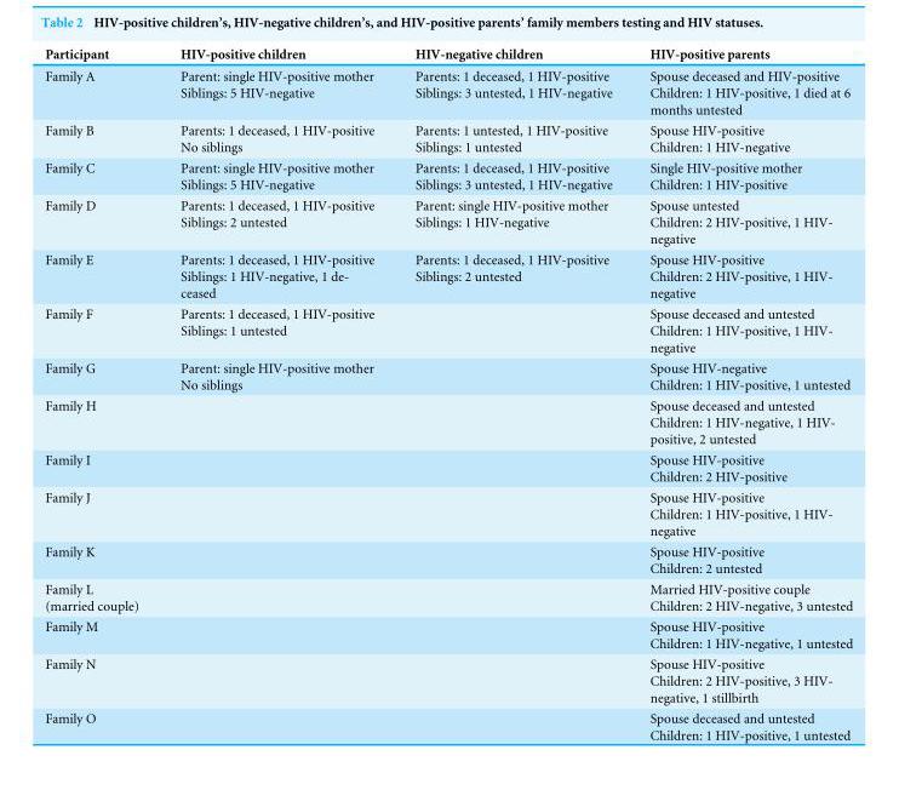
<table><thead><tr><td>Participant</td><td>HIV-positive children</td><td>HIV-negative children</td><td>HIV-positive parents</td></tr></thead><tbody><tr><td>Family A</td><td>Parent: single HIV-positive mother Siblings: 5 HIV-negative</td><td>Parents: 1 deceased, 1 HIV-positive Siblings: 3 untested, 1 HIV-negative</td><td>Spouse deceased and HIV-positive Children: 1 HIV-positive, 1 died at 6 months untested</td></tr><tr><td>Family B</td><td>Parents: 1 deceased, 1 HIV-positive No siblings</td><td>Parents: 1 untested, 1 HIV-positive Siblings: 1 untested</td><td>Spouse HIV-positive Children: 1 HIV-negative</td></tr><tr><td>Family C</td><td>Parent: single HIV-positive mother Siblings: 5 HIV-negative</td><td>Parents: 1 deceased, 1 HIV-positive Siblings: 3 untested, 1 HIV-negative</td><td>Single HIV-positive mother Children: 1 HIV-positive</td></tr><tr><td>Family D</td><td>Parents: 1 deceased, 1 HIV-positive Siblings: 2 untested</td><td>Parent: single HIV-positive mother Siblings: 1 HIV-negative</td><td>Spouse untested Children: 2 HIV-positive, 1 HIV- negative</td></tr><tr><td>Family E</td><td>Parents: 1 deceased, 1 HIV-positive Siblings: 1 HIV-negative, 1 de- ceased</td><td>Parents: 1 deceased, 1 HIV-positive Siblings: 2 untested</td><td>Spouse HIV-positive Children: 2 HIV-positive, 1 HIV- negative</td></tr><tr><td>Family F</td><td>Parents: 1 deceased, 1 HIV-positive Siblings: 1 untested</td><td></td><td>Spouse deceased and untested Children: 1 HIV-positive, 1 HIV- negative</td></tr><tr><td>Family G</td><td>Parent: single HIV-positive mother No siblings</td><td></td><td>Spouse HIV-negative Children: 1 HIV-positive, 1 untested</td></tr><tr><td>Family H</td><td></td><td></td><td>Spouse deceased and untested Children: 1 HIV-negative, 1 HIV- positive, 2 untested</td></tr><tr><td>Family I</td><td></td><td></td><td>Spouse HIV-positive Children: 2 HIV-positive</td></tr><tr><td>Family J</td><td></td><td></td><td>Spouse HIV-positive Children: 1 HIV-positive, 1 HIV- negative</td></tr><tr><td>Family K</td><td></td><td></td><td>Spouse HIV-positive Children: 2 untested</td></tr><tr><td>Family L (married couple)</td><td></td><td></td><td>Married HIV-positive couple Children: 2 HIV-negative, 3 untested</td></tr><tr><td>Family M</td><td></td><td></td><td>Spouse HIV-positive Children: 1 HIV-negative, 1 untested</td></tr><tr><td>Family N</td><td></td><td></td><td>Spouse HIV-positive Children: 2 HIV-positive, 3 HIV- negative, 1 stillbirth</td></tr><tr><td>Family O</td><td></td><td></td><td>Spouse deceased and untested Children: 1 HIV-positive, 1 untested</td></tr></tbody></table>